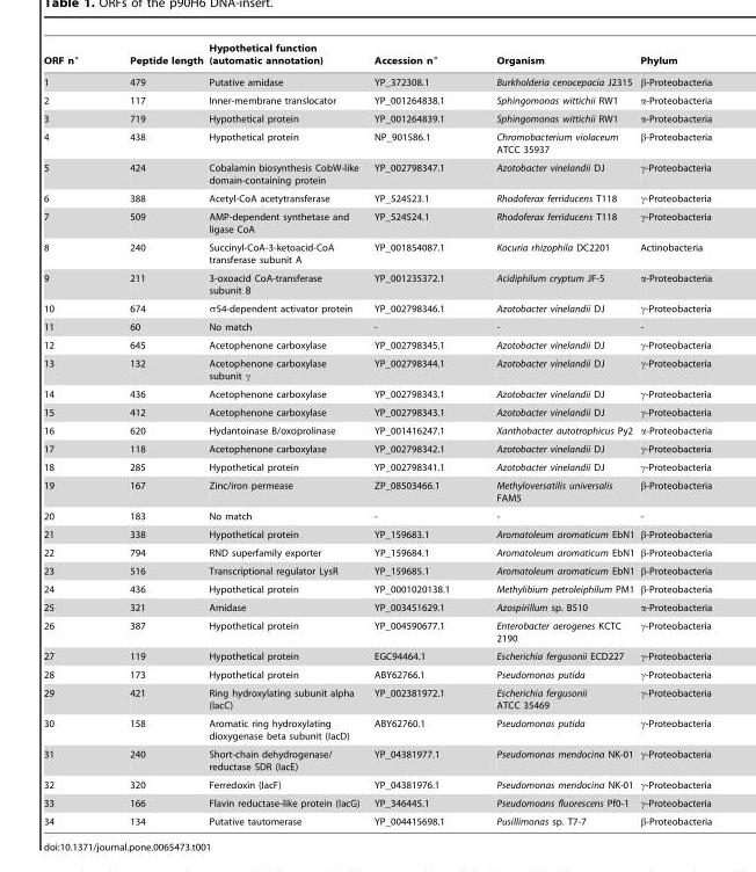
<table><thead><tr><td>ORF n°</td><td>Peptide length</td><td>Hypothetical function (automatic annotation)</td><td>Accession n°</td><td>Organism</td><td>Phylum</td></tr></thead><tbody><tr><td>1</td><td>479</td><td>Putative amidase</td><td>YP_372308.1</td><td>Burkholderia cenocepacia J2315</td><td>β-Proteobacteria</td></tr><tr><td>2</td><td>117</td><td>Inner-membrane translocator</td><td>YP_001264838.1</td><td>Sphingomonas wittichii RW1</td><td>α-Proteobacteria</td></tr><tr><td>3</td><td>719</td><td>Hypothetical protein</td><td>YP_001264839.1</td><td>Sphingomonas wittichii RW1</td><td>α-Proteobacteria</td></tr><tr><td>4</td><td>438</td><td>Hypothetical protein</td><td>NP_901586.1</td><td>Chromobacterium violaceum ATCC 35937</td><td>β-Proteobacteria</td></tr><tr><td>5</td><td>424</td><td>Cobalamin biosynthesis CobW-like domain-containing protein</td><td>YP_002798347.1</td><td>Azotobacter vinelandii DJ</td><td>γ-Proteobacteria</td></tr><tr><td>6</td><td>388</td><td>Acetyl-CoA acetytransferase</td><td>YP_524523.1</td><td>Rhodoferax ferriducens T118</td><td>γ-Proteobacteria</td></tr><tr><td>7</td><td>509</td><td>AMP-dependent synthetase and ligase CoA</td><td>YP_524524.1</td><td>Rhodoferax ferriducens T118</td><td>γ-Proteobacteria</td></tr><tr><td>8</td><td>240</td><td>Succinyl-CoA-3-ketoacid-CoA transferase subunit A</td><td>YP_001854087.1</td><td>Kocuria rhizophila DC2201</td><td>Actinobacteria</td></tr><tr><td>9</td><td>211</td><td>3-oxoacid CoA-transferase subunit B</td><td>YP_001235372.1</td><td>Acidiphilum cryptum JF-5</td><td>α-Proteobacteria</td></tr><tr><td>10</td><td>674</td><td>σ54-dependent activator protein</td><td>YP_002798346.1</td><td>Azotobacter vinelandii DJ</td><td>γ-Proteobacteria</td></tr><tr><td>11</td><td>60</td><td>No match</td><td>-</td><td>-</td><td>-</td></tr><tr><td>12</td><td>645</td><td>Acetophenone carboxylase</td><td>YP_002798345.1</td><td>Azotobacter vinelandii DJ</td><td>γ-Proteobacteria</td></tr><tr><td>13</td><td>132</td><td>Acetophenone carboxylase subunit γ</td><td>YP_002798344.1</td><td>Azotobacter vinelandii DJ</td><td>γ-Proteobacteria</td></tr><tr><td>14</td><td>436</td><td>Acetophenone carboxylase</td><td>YP_002798343.1</td><td>Azotobacter vinelandii DJ</td><td>γ-Proteobacteria</td></tr><tr><td>15</td><td>412</td><td>Acetophenone carboxylase</td><td>YP_002798343.1</td><td>Azotobacter vinelandii DJ</td><td>γ-Proteobacteria</td></tr><tr><td>16</td><td>620</td><td>Hydantoinase B/oxoprolinase</td><td>YP_001416247.1</td><td>Xanthobacter autotrophicus Py2</td><td>α-Proteobacteria</td></tr><tr><td>17</td><td>118</td><td>Acetophenone carboxylase</td><td>YP_002798342.1</td><td>Azotobacter vinelandii DJ</td><td>γ-Proteobacteria</td></tr><tr><td>18</td><td>285</td><td>Hypothetical protein</td><td>YP_002798341.1</td><td>Azotobacter vinelandii DJ</td><td>γ-Proteobacteria</td></tr><tr><td>19</td><td>167</td><td>Zinc/iron permease</td><td>ZP_08503466.1</td><td>Methyloversatilis universalis FAM5</td><td>β-Proteobacteria</td></tr><tr><td>20</td><td>183</td><td>No match</td><td>-</td><td>-</td><td>-</td></tr><tr><td>21</td><td>338</td><td>Hypothetical protein</td><td>YP_159683.1</td><td>Aromatoleum aromaticum EbN1</td><td>β-Proteobacteria</td></tr><tr><td>22</td><td>794</td><td>RND superfamily exporter</td><td>YP_159684.1</td><td>Aromatoleum aromaticum EbN1</td><td>β-Proteobacteria</td></tr><tr><td>23</td><td>516</td><td>Transcriptional regulator LysR</td><td>YP_159685.1</td><td>Aromatoleum aromaticum EbN1</td><td>β-Proteobacteria</td></tr><tr><td>24</td><td>436</td><td>Hypothetical protein</td><td>YP_0001020138.1</td><td>Methylibium petroleiphilum PM1</td><td>β-Proteobacteria</td></tr><tr><td>25</td><td>321</td><td>Amidase</td><td>YP_003451629.1</td><td>Azospirillum sp. B510</td><td>α-Proteobacteria</td></tr><tr><td>26</td><td>387</td><td>Hypothetical protein</td><td>YP_004590677.1</td><td>Enterobacter aerogenes KCTC 2190</td><td>γ-Proteobacteria</td></tr><tr><td>27</td><td>119</td><td>Hypothetical protein</td><td>EGC94464.1</td><td>Escherichia fergusonii ECD227</td><td>γ-Proteobacteria</td></tr><tr><td>28</td><td>173</td><td>Hypothetical protein</td><td>ABY62766.1</td><td>Pseudomonas putida</td><td>γ-Proteobacteria</td></tr><tr><td>29</td><td>421</td><td>Ring hydroxylating subunit alpha (IacC)</td><td>YP_002381972.1</td><td>Escherichia fergusonii ATCC 35469</td><td>γ-Proteobacteria</td></tr><tr><td>30</td><td>158</td><td>Aromatic ring hydroxylating dioxygenase beta subunit (IacD)</td><td>ABY62760.1</td><td>Pseudomonas putida</td><td>γ-Proteobacteria</td></tr><tr><td>31</td><td>240</td><td>Short-chain dehydrogenase/ reductase SDR (IacE)</td><td>YP_04381977.1</td><td>Pseudomonas mendocina NK-01</td><td>γ-Proteobacteria</td></tr><tr><td>32</td><td>320</td><td>Ferredoxin (IacF)</td><td>YP_04381976.1</td><td>Pseudomonas mendocina NK-01</td><td>γ-Proteobacteria</td></tr><tr><td>33</td><td>166</td><td>Flavin reductase-like protein (IacG)</td><td>YP_346445.1</td><td>Pseudomoans fluorescens Pf0-1</td><td>γ-Proteobacteria</td></tr><tr><td>34</td><td>134</td><td>Putative tautomerase</td><td>YP_004415698.1</td><td>Pusillimonas sp. T7-7</td><td>β-Proteobacteria</td></tr></tbody></table>